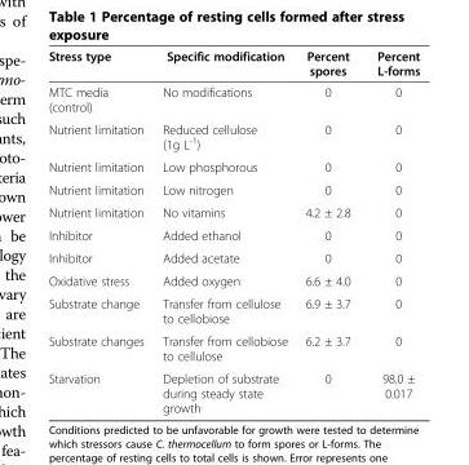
<table><thead><tr><td>Stress type</td><td>Specific modification</td><td>Percent spores</td><td>Percent L-forms</td></tr></thead><tbody><tr><td>MTC media (control)</td><td>No modifications</td><td>0</td><td>0</td></tr><tr><td>Nutrient limitation</td><td>Reduced cellulose (1g L<sup>-1</sup>)</td><td>0</td><td>0</td></tr><tr><td>Nutrient limitation</td><td>Low phosphorous</td><td>0</td><td>0</td></tr><tr><td>Nutrient limitation</td><td>Low nitrogen</td><td>0</td><td>0</td></tr><tr><td>Nutrient limitation</td><td>No vitamins</td><td>4.2 ± 2.8</td><td>0</td></tr><tr><td>Inhibitor</td><td>Added ethanol</td><td>0</td><td>0</td></tr><tr><td>Inhibitor</td><td>Added acetate</td><td>0</td><td>0</td></tr><tr><td>Oxidative stress</td><td>Added oxygen</td><td>6.6 ± 4.0</td><td>0</td></tr><tr><td>Substrate change</td><td>Transfer from cellulose to cellobiose</td><td>6.9 ± 3.7</td><td>0</td></tr><tr><td>Substrate changes</td><td>Transfer from cellobiose to cellulose</td><td>6.2 ± 3.7</td><td>0</td></tr><tr><td>Starvation</td><td>Depletion of substrate during steady state growth</td><td>0</td><td>98.0 ± 0.017</td></tr></tbody></table>